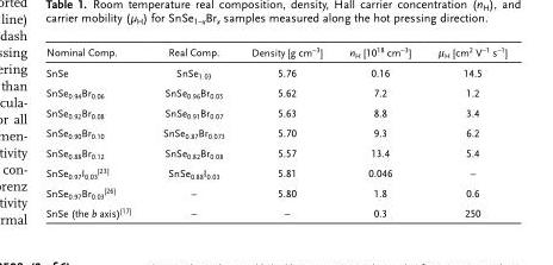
<table><thead><tr><td>Nominal Comp.</td><td>Real Comp.</td><td>Density [g cm<sup>−3</sup>]</td><td>n<sub>H</sub> [10<sup>18</sup> cm<sup>−3</sup>]</td><td>µ<sub>H</sub> [cm<sup>2</sup> V<sup>−1</sup> s<sup>−1</sup>]</td></tr></thead><tbody><tr><td>SnSe</td><td>SnSe<sub>1.03</sub></td><td>5.76</td><td>0.16</td><td>14.5</td></tr><tr><td>SnSe<sub>0.94</sub>Br<sub>0.06</sub></td><td>SnSe<sub>0.96</sub>Br<sub>0.05</sub></td><td>5.62</td><td>7.2</td><td>1.2</td></tr><tr><td>SnSe<sub>0.92</sub>Br<sub>0.08</sub></td><td>SnSe<sub>0.91</sub>Br<sub>0.07</sub></td><td>5.63</td><td>8.8</td><td>3.4</td></tr><tr><td>SnSe<sub>0.90</sub>Br<sub>0.10</sub></td><td>SnSe<sub>0.87</sub>Br<sub>0.073</sub></td><td>5.70</td><td>9.3</td><td>6.2</td></tr><tr><td>SnSe<sub>0.88</sub>Br<sub>0.12</sub></td><td>SnSe<sub>0.82</sub>Br<sub>0.08</sub></td><td>5.57</td><td>13.4</td><td>5.4</td></tr><tr><td>SnSe0.97I0.03[23]</td><td>SnSe<sub>0.88</sub>I<sub>0.03</sub></td><td>5.81</td><td>0.046</td><td>–</td></tr><tr><td>SnSe0.97Br0.03[26]</td><td>–</td><td>5.80</td><td>1.8</td><td>0.6</td></tr><tr><td>SnSe (the b axis)[17]</td><td>–</td><td>–</td><td>0.3</td><td>250</td></tr></tbody></table>